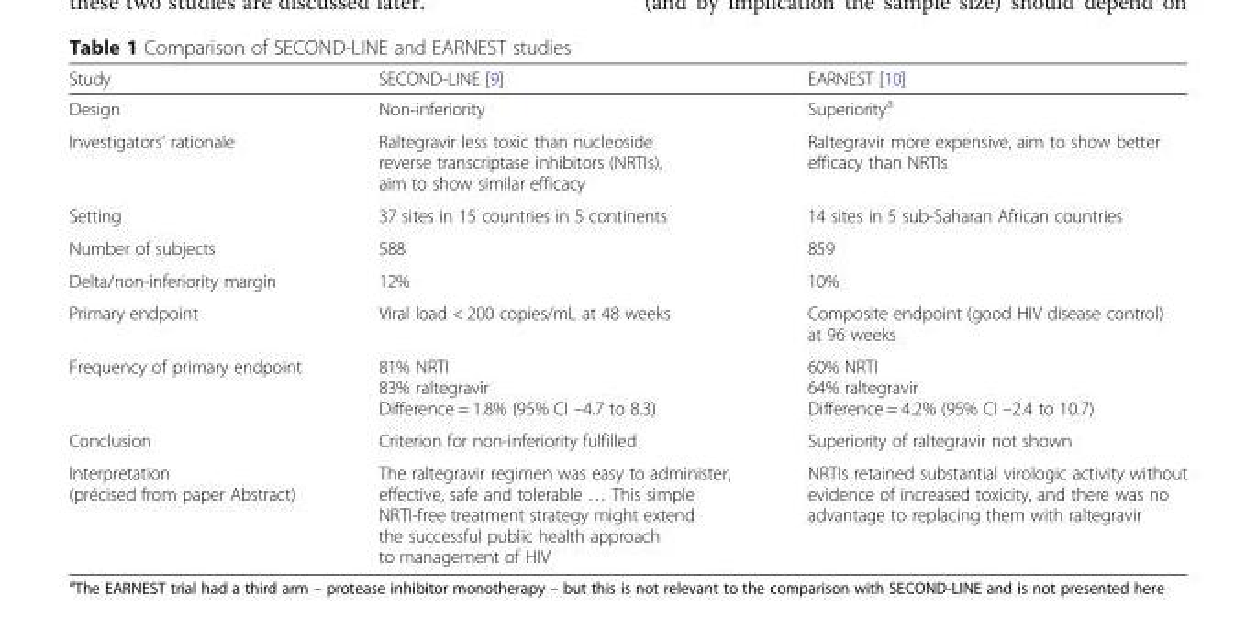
<table><thead><tr><td>Study</td><td>SECOND-LINE [9]</td><td>EARNEST [10]</td></tr></thead><tbody><tr><td>Design</td><td>Non-inferiority</td><td>Superiority<sup>a</sup></td></tr><tr><td>Investigators’ rationale</td><td>Raltegravir less toxic than nucleoside reverse transcriptase inhibitors (NRTIs), aim to show similar efficacy</td><td>Raltegravir more expensive, aim to show better efficacy than NRTIs</td></tr><tr><td>Setting</td><td>37 sites in 15 countries in 5 continents</td><td>14 sites in 5 sub-Saharan African countries</td></tr><tr><td>Number of subjects</td><td>588</td><td>859</td></tr><tr><td>Delta/non-inferiority margin</td><td>12%</td><td>10%</td></tr><tr><td>Primary endpoint</td><td>Viral load &lt; 200 copies/mL at 48 weeks</td><td>Composite endpoint (good HIV disease control) at 96 weeks</td></tr><tr><td>Frequency of primary endpoint</td><td>81% NRTI 83% raltegravir Difference = 1.8% (95% CI –4.7 to 8.3)</td><td>60% NRTI 64% raltegravir Difference = 4.2% (95% CI –2.4 to 10.7)</td></tr><tr><td>Conclusion</td><td>Criterion for non-inferiority fulfilled</td><td>Superiority of raltegravir not shown</td></tr><tr><td>Interpretation (précised from paper Abstract)</td><td>The raltegravir regimen was easy to administer, effective, safe and tolerable … This simple NRTI-free treatment strategy might extend the successful public health approach to management of HIV</td><td>NRTIs retained substantial virologic activity without evidence of increased toxicity, and there was no advantage to replacing them with raltegravir</td></tr></tbody></table>